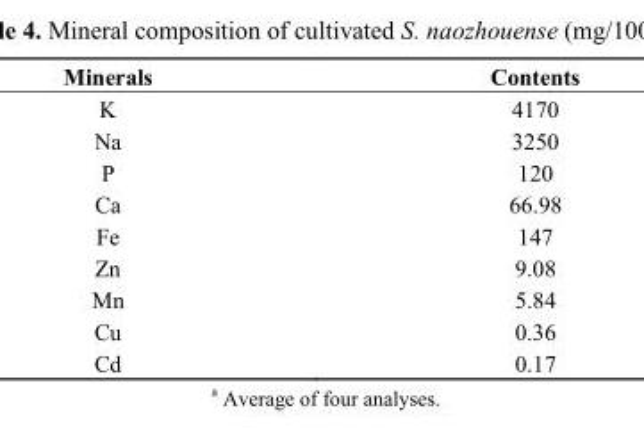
<table><thead><tr><td>Minerals</td><td>Contents</td></tr></thead><tbody><tr><td>K</td><td>4170</td></tr><tr><td>Na</td><td>3250</td></tr><tr><td>P</td><td>120</td></tr><tr><td>Ca</td><td>66.98</td></tr><tr><td>Fe</td><td>147</td></tr><tr><td>Zn</td><td>9.08</td></tr><tr><td>Mn</td><td>5.84</td></tr><tr><td>Cu</td><td>0.36</td></tr><tr><td>Cd</td><td>0.17</td></tr></tbody></table>